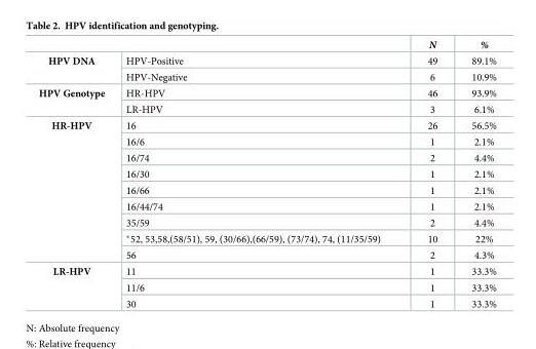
<table><thead><tr><td></td><td></td><td>N</td><td>%</td></tr></thead><tbody><tr><td rowspan="2">HPV DNA</td><td>HPV-Positive</td><td>49</td><td>89.1%</td></tr><tr><td>HPV-Negative</td><td>6</td><td>10.9%</td></tr><tr><td rowspan="2">HPV Genotype</td><td>HR-HPV</td><td>46</td><td>93.9%</td></tr><tr><td>LR-HPV</td><td>3</td><td>6.1%</td></tr><tr><td rowspan="9">HR-HPV</td><td>16</td><td>26</td><td>56.5%</td></tr><tr><td>16/6</td><td>1</td><td>2.1%</td></tr><tr><td>16/74</td><td>2</td><td>4.4%</td></tr><tr><td>16/30</td><td>1</td><td>2.1%</td></tr><tr><td>16/66</td><td>1</td><td>2.1%</td></tr><tr><td>16/44/74</td><td>1</td><td>2.1%</td></tr><tr><td>35/59</td><td>2</td><td>4.4%</td></tr><tr><td>*52, 53,58,(58/51), 59, (30/66),(66/59), (73/74), 74, (11/35/59)</td><td>10</td><td>22%</td></tr><tr><td>56</td><td>2</td><td>4.3%</td></tr><tr><td rowspan="3">LR-HPV</td><td>11</td><td>1</td><td>33.3%</td></tr><tr><td>11/6</td><td>1</td><td>33.3%</td></tr><tr><td>30</td><td>1</td><td>33.3%</td></tr></tbody></table>